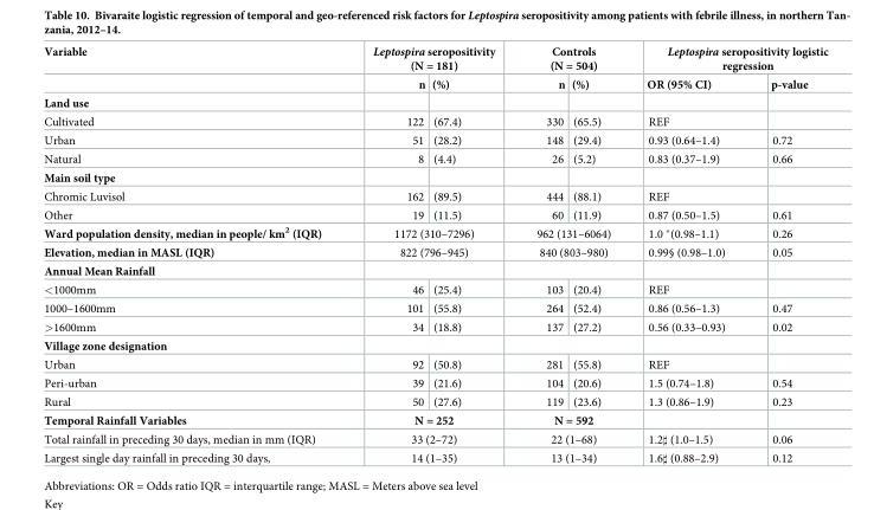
<table><thead><tr><td rowspan="2">Variable</td><td colspan="2">Leptospira seropositivity (N = 181)</td><td colspan="2">Controls (N = 504)</td><td colspan="2">Leptospira seropositivity logistic regression</td></tr><tr><td>n</td><td>(%)</td><td>n</td><td>(%)</td><td>OR (95% CI)</td><td>p-value</td></tr></thead><tbody><tr><td colspan="7">Land use</td></tr><tr><td>Cultivated</td><td>122</td><td>(67.4)</td><td>330</td><td>(65.5)</td><td>REF</td><td></td></tr><tr><td>Urban</td><td>51</td><td>(28.2)</td><td>148</td><td>(29.4)</td><td>0.93 (0.64–1.4)</td><td>0.72</td></tr><tr><td>Natural</td><td>8</td><td>(4.4)</td><td>26</td><td>(5.2)</td><td>0.83 (0.37–1.9)</td><td>0.66</td></tr><tr><td colspan="7">Main soil type</td></tr><tr><td>Chromic Luvisol</td><td>162</td><td>(89.5)</td><td>444</td><td>(88.1)</td><td>REF</td><td></td></tr><tr><td>Other</td><td>19</td><td>(11.5)</td><td>60</td><td>(11.9)</td><td>0.87 (0.50–1.5)</td><td>0.61</td></tr><tr><td>Ward population density, median in people/ km<sup>2</sup> (IQR)</td><td colspan="2">1172 (310–7296)</td><td colspan="2">962 (131–6064)</td><td>1.0 *(0.98–1.1)</td><td>0.26</td></tr><tr><td>Elevation, median in MASL (IQR)</td><td colspan="2">822 (796–945)</td><td colspan="2">840 (803–980)</td><td>0.99§ (0.98–1.0)</td><td>0.05</td></tr><tr><td colspan="7">Annual Mean Rainfall</td></tr><tr><td>&lt;1000mm</td><td>46</td><td>(25.4)</td><td>103</td><td>(20.4)</td><td>REF</td><td></td></tr><tr><td>1000–1600mm</td><td>101</td><td>(55.8)</td><td>264</td><td>(52.4)</td><td>0.86 (0.56–1.3)</td><td>0.47</td></tr><tr><td>&gt;1600mm</td><td>34</td><td>(18.8)</td><td>137</td><td>(27.2)</td><td>0.56 (0.33–0.93)</td><td>0.02</td></tr><tr><td colspan="7">Village zone designation</td></tr><tr><td>Urban</td><td>92</td><td>(50.8)</td><td>281</td><td>(55.8)</td><td>REF</td><td></td></tr><tr><td>Peri-urban</td><td>39</td><td>(21.6)</td><td>104</td><td>(20.6)</td><td>1.5 (0.74–1.8)</td><td>0.54</td></tr><tr><td>Rural</td><td>50</td><td>(27.6)</td><td>119</td><td>(23.6)</td><td>1.3 (0.86–1.9)</td><td>0.23</td></tr><tr><td>Temporal Rainfall Variables</td><td colspan="2">N = 252</td><td colspan="2">N = 592</td><td></td><td></td></tr><tr><td>Total rainfall in preceding 30 days, median in mm (IQR)</td><td colspan="2">33 (2–72)</td><td colspan="2">22 (1–68)</td><td>1.2♯ (1.0–1.5)</td><td>0.06</td></tr><tr><td>Largest single day rainfall in preceding 30 days,</td><td colspan="2">14 (1–35)</td><td colspan="2">13 (1–34)</td><td>1.6♯ (0.88–2.9)</td><td>0.12</td></tr></tbody></table>